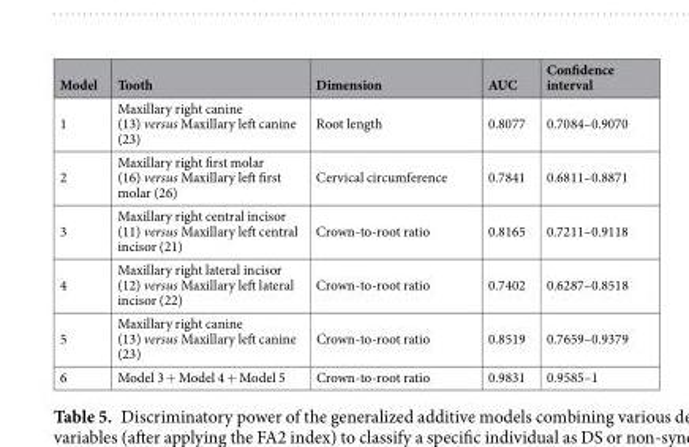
<table><thead><tr><td>Model</td><td>Tooth</td><td>Dimension</td><td>AUC</td><td>Confidence interval</td></tr></thead><tbody><tr><td>1</td><td>Maxillary right canine (13) versus Maxillary left canine (23)</td><td>Root length</td><td>0.8077</td><td>0.7084–0.9070</td></tr><tr><td>2</td><td>Maxillary right first molar (16) versus Maxillary left first molar (26)</td><td>Cervical circumference</td><td>0.7841</td><td>0.6811–0.8871</td></tr><tr><td>3</td><td>Maxillary right central incisor (11) versus Maxillary left central incisor (21)</td><td>Crown-to-root ratio</td><td>0.8165</td><td>0.7211–0.9118</td></tr><tr><td>4</td><td>Maxillary right lateral incisor (12) versus Maxillary left lateral incisor (22)</td><td>Crown-to-root ratio</td><td>0.7402</td><td>0.6287–0.8518</td></tr><tr><td>5</td><td>Maxillary right canine (13) versus Maxillary left canine (23)</td><td>Crown-to-root ratio</td><td>0.8519</td><td>0.7659–0.9379</td></tr><tr><td>6</td><td>Model 3 + Model 4 + Model 5</td><td>Crown-to-root ratio</td><td>0.9831</td><td>0.9585–1</td></tr></tbody></table>